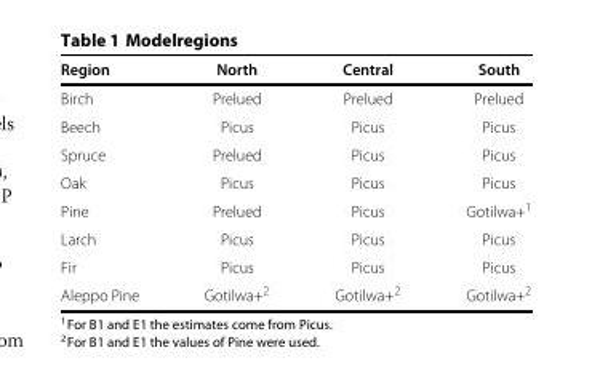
<table><thead><tr><td>Region</td><td>North</td><td>Central</td><td>South</td></tr></thead><tbody><tr><td>Birch</td><td>Prelued</td><td>Prelued</td><td>Prelued</td></tr><tr><td>Beech</td><td>Picus</td><td>Picus</td><td>Picus</td></tr><tr><td>Spruce</td><td>Prelued</td><td>Picus</td><td>Picus</td></tr><tr><td>Oak</td><td>Picus</td><td>Picus</td><td>Picus</td></tr><tr><td>Pine</td><td>Prelued</td><td>Picus</td><td>Gotilwa+<sup>1</sup></td></tr><tr><td>Larch</td><td>Picus</td><td>Picus</td><td>Picus</td></tr><tr><td>Fir</td><td>Picus</td><td>Picus</td><td>Picus</td></tr><tr><td>Aleppo Pine</td><td>Gotilwa+<sup>2</sup></td><td>Gotilwa+<sup>2</sup></td><td>Gotilwa+<sup>2</sup></td></tr></tbody></table>